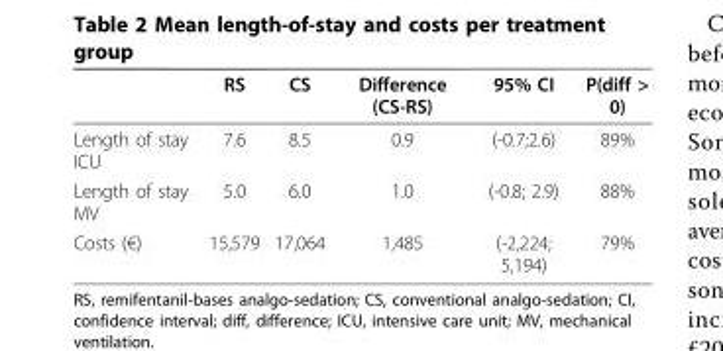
<table><thead><tr><td></td><td>RS</td><td>CS</td><td>Difference (CS-RS)</td><td>95% CI</td><td>P(diff &gt; 0)</td></tr></thead><tbody><tr><td>Length of stay ICU</td><td>7.6</td><td>8.5</td><td>0.9</td><td>(-0.7;2.6)</td><td>89%</td></tr><tr><td>Length of stay MV</td><td>5.0</td><td>6.0</td><td>1.0</td><td>(-0.8; 2.9)</td><td>88%</td></tr><tr><td>Costs (€)</td><td>15,579</td><td>17,064</td><td>1,485</td><td>(-2,224; 5,194)</td><td>79%</td></tr></tbody></table>